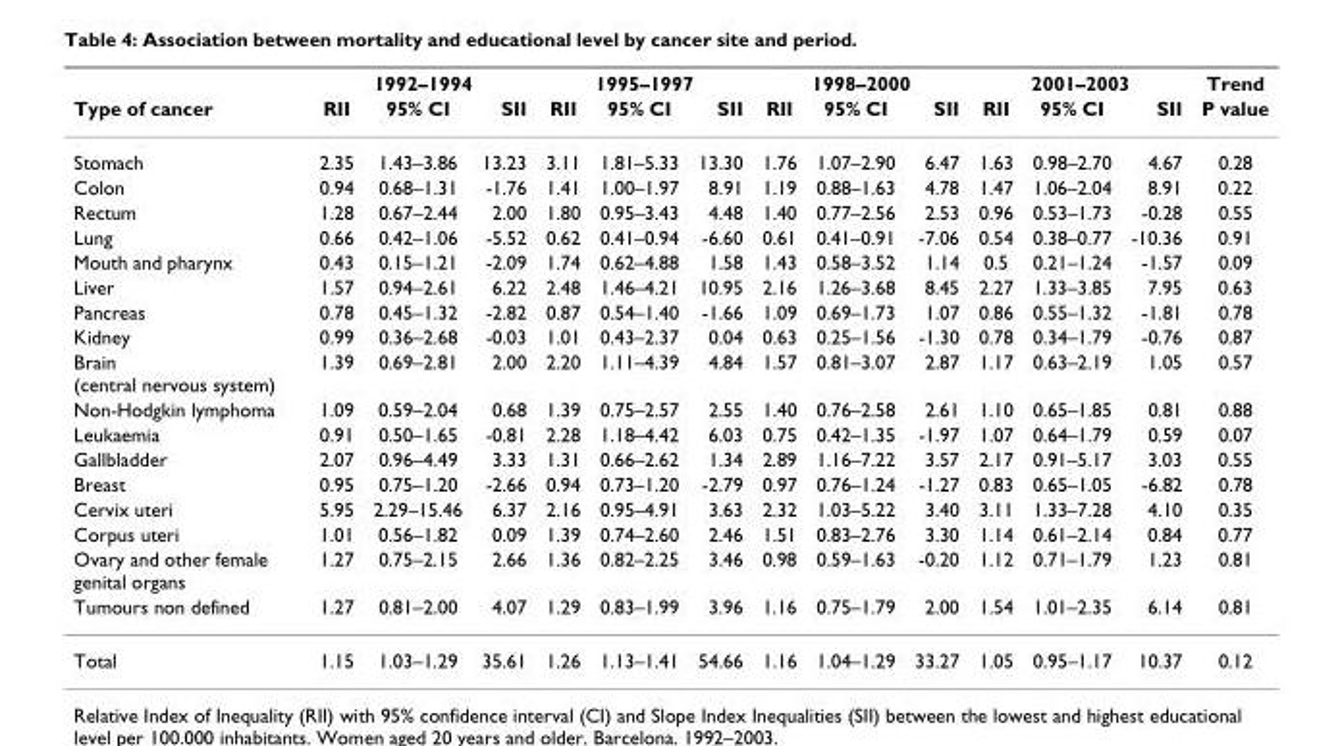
<table><thead><tr><td rowspan="2">Type of cancer</td><td colspan="3">1992–1994</td><td colspan="3">1995–1997</td><td colspan="3">1998–2000</td><td colspan="3">2001–2003</td><td rowspan="2">Trend P value</td></tr><tr><td>RII</td><td>95% CI</td><td>SII</td><td>RII</td><td>95% CI</td><td>SII</td><td>RII</td><td>95% CI</td><td>SII</td><td>RII</td><td>95% CI</td><td>SII</td></tr></thead><tbody><tr><td>Stomach</td><td>2.35</td><td>1.43–3.86</td><td>13.23</td><td>3.11</td><td>1.81–5.33</td><td>13.30</td><td>1.76</td><td>1.07–2.90</td><td>6.47</td><td>1.63</td><td>0.98–2.70</td><td>4.67</td><td>0.28</td></tr><tr><td>Colon</td><td>0.94</td><td>0.68–1.31</td><td>-1.76</td><td>1.41</td><td>1.00–1.97</td><td>8.91</td><td>1.19</td><td>0.88–1.63</td><td>4.78</td><td>1.47</td><td>1.06–2.04</td><td>8.91</td><td>0.22</td></tr><tr><td>Rectum</td><td>1.28</td><td>0.67–2.44</td><td>2.00</td><td>1.80</td><td>0.95–3.43</td><td>4.48</td><td>1.40</td><td>0.77–2.56</td><td>2.53</td><td>0.96</td><td>0.53–1.73</td><td>-0.28</td><td>0.55</td></tr><tr><td>Lung</td><td>0.66</td><td>0.42–1.06</td><td>-5.52</td><td>0.62</td><td>0.41–0.94</td><td>-6.60</td><td>0.61</td><td>0.41–0.91</td><td>-7.06</td><td>0.54</td><td>0.38–0.77</td><td>-10.36</td><td>0.91</td></tr><tr><td>Mouth and pharynx</td><td>0.43</td><td>0.15–1.21</td><td>-2.09</td><td>1.74</td><td>0.62–4.88</td><td>1.58</td><td>1.43</td><td>0.58–3.52</td><td>1.14</td><td>0.5</td><td>0.21–1.24</td><td>-1.57</td><td>0.09</td></tr><tr><td>Liver</td><td>1.57</td><td>0.94–2.61</td><td>6.22</td><td>2.48</td><td>1.46–4.21</td><td>10.95</td><td>2.16</td><td>1.26–3.68</td><td>8.45</td><td>2.27</td><td>1.33–3.85</td><td>7.95</td><td>0.63</td></tr><tr><td>Pancreas</td><td>0.78</td><td>0.45–1.32</td><td>-2.82</td><td>0.87</td><td>0.54–1.40</td><td>-1.66</td><td>1.09</td><td>0.69–1.73</td><td>1.07</td><td>0.86</td><td>0.55–1.32</td><td>-1.81</td><td>0.78</td></tr><tr><td>Kidney</td><td>0.99</td><td>0.36–2.68</td><td>-0.03</td><td>1.01</td><td>0.43–2.37</td><td>0.04</td><td>0.63</td><td>0.25–1.56</td><td>-1.30</td><td>0.78</td><td>0.34–1.79</td><td>-0.76</td><td>0.87</td></tr><tr><td>Brain (central nervous system)</td><td>1.39</td><td>0.69–2.81</td><td>2.00</td><td>2.20</td><td>1.11–4.39</td><td>4.84</td><td>1.57</td><td>0.81–3.07</td><td>2.87</td><td>1.17</td><td>0.63–2.19</td><td>1.05</td><td>0.57</td></tr><tr><td>Non-Hodgkin lymphoma</td><td>1.09</td><td>0.59–2.04</td><td>0.68</td><td>1.39</td><td>0.75–2.57</td><td>2.55</td><td>1.40</td><td>0.76–2.58</td><td>2.61</td><td>1.10</td><td>0.65–1.85</td><td>0.81</td><td>0.88</td></tr><tr><td>Leukaemia</td><td>0.91</td><td>0.50–1.65</td><td>-0.81</td><td>2.28</td><td>1.18–4.42</td><td>6.03</td><td>0.75</td><td>0.42–1.35</td><td>-1.97</td><td>1.07</td><td>0.64–1.79</td><td>0.59</td><td>0.07</td></tr><tr><td>Gallbladder</td><td>2.07</td><td>0.96–4.49</td><td>3.33</td><td>1.31</td><td>0.66–2.62</td><td>1.34</td><td>2.89</td><td>1.16–7.22</td><td>3.57</td><td>2.17</td><td>0.91–5.17</td><td>3.03</td><td>0.55</td></tr><tr><td>Breast</td><td>0.95</td><td>0.75–1.20</td><td>-2.66</td><td>0.94</td><td>0.73–1.20</td><td>-2.79</td><td>0.97</td><td>0.76–1.24</td><td>-1.27</td><td>0.83</td><td>0.65–1.05</td><td>-6.82</td><td>0.78</td></tr><tr><td>Cervix uteri</td><td>5.95</td><td>2.29–15.46</td><td>6.37</td><td>2.16</td><td>0.95–4.91</td><td>3.63</td><td>2.32</td><td>1.03–5.22</td><td>3.40</td><td>3.11</td><td>1.33–7.28</td><td>4.10</td><td>0.35</td></tr><tr><td>Corpus uteri</td><td>1.01</td><td>0.56–1.82</td><td>0.09</td><td>1.39</td><td>0.74–2.60</td><td>2.46</td><td>1.51</td><td>0.83–2.76</td><td>3.30</td><td>1.14</td><td>0.61–2.14</td><td>0.84</td><td>0.77</td></tr><tr><td>Ovary and other female genital organs</td><td>1.27</td><td>0.75–2.15</td><td>2.66</td><td>1.36</td><td>0.82–2.25</td><td>3.46</td><td>0.98</td><td>0.59–1.63</td><td>-0.20</td><td>1.12</td><td>0.71–1.79</td><td>1.23</td><td>0.81</td></tr><tr><td>Tumours non defined</td><td>1.27</td><td>0.81–2.00</td><td>4.07</td><td>1.29</td><td>0.83–1.99</td><td>3.96</td><td>1.16</td><td>0.75–1.79</td><td>2.00</td><td>1.54</td><td>1.01–2.35</td><td>6.14</td><td>0.81</td></tr><tr><td>Total</td><td>1.15</td><td>1.03–1.29</td><td>35.61</td><td>1.26</td><td>1.13–1.41</td><td>54.66</td><td>1.16</td><td>1.04–1.29</td><td>33.27</td><td>1.05</td><td>0.95–1.17</td><td>10.37</td><td>0.12</td></tr></tbody></table>